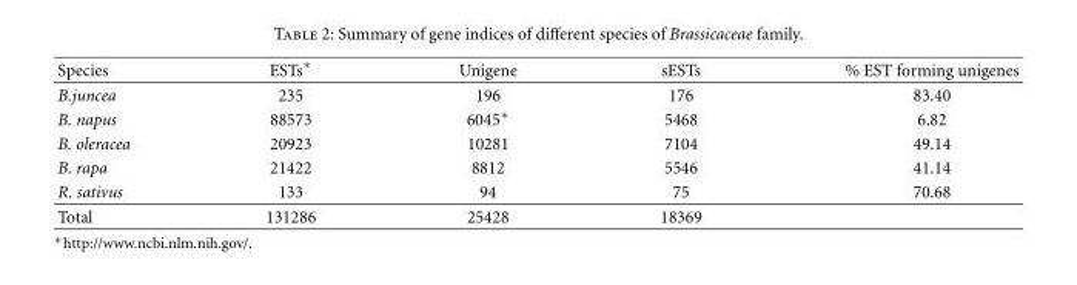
<table><thead><tr><td>Species</td><td>ESTs∗</td><td>Unigene</td><td>sESTs</td><td>% EST forming unigenes</td></tr></thead><tbody><tr><td>B.juncea</td><td>235</td><td>196</td><td>176</td><td>83.40</td></tr><tr><td>B. napus</td><td>88573</td><td>6045∗</td><td>5468</td><td>6.82</td></tr><tr><td>B. oleracea</td><td>20923</td><td>10281</td><td>7104</td><td>49.14</td></tr><tr><td>B. rapa</td><td>21422</td><td>8812</td><td>5546</td><td>41.14</td></tr><tr><td>R. sativus</td><td>133</td><td>94</td><td>75</td><td>70.68</td></tr><tr><td>Total</td><td>131286</td><td>25428</td><td>18369</td><td></td></tr></tbody></table>